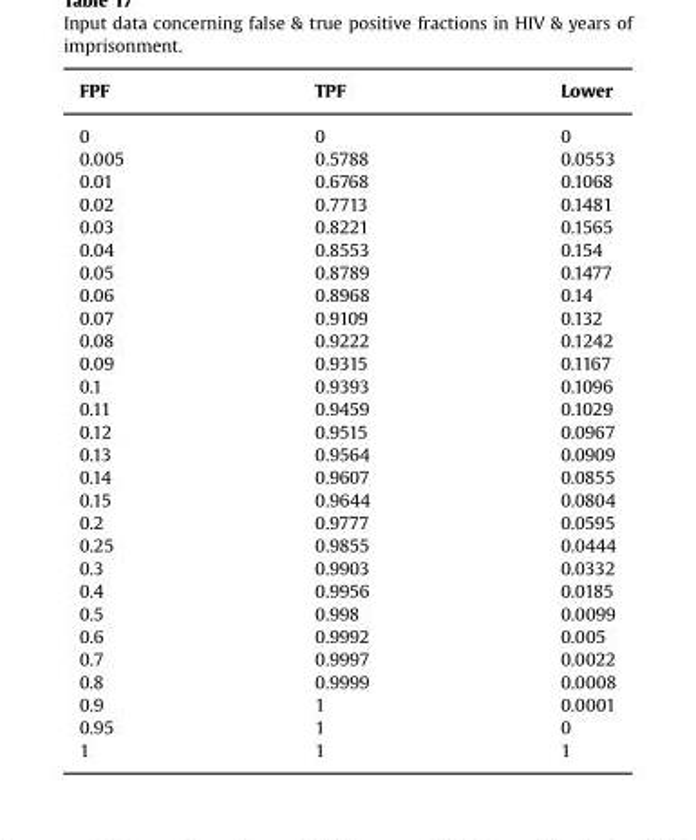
<table><thead><tr><td>FPF</td><td>TPF</td><td>Lower</td></tr></thead><tbody><tr><td>0</td><td>0</td><td>0</td></tr><tr><td>0.005</td><td>0.5788</td><td>0.0553</td></tr><tr><td>0.01</td><td>0.6768</td><td>0.1068</td></tr><tr><td>0.02</td><td>0.7713</td><td>0.1481</td></tr><tr><td>0.03</td><td>0.8221</td><td>0.1565</td></tr><tr><td>0.04</td><td>0.8553</td><td>0.154</td></tr><tr><td>0.05</td><td>0.8789</td><td>0.1477</td></tr><tr><td>0.06</td><td>0.8968</td><td>0.14</td></tr><tr><td>0.07</td><td>0.9109</td><td>0.132</td></tr><tr><td>0.08</td><td>0.9222</td><td>0.1242</td></tr><tr><td>0.09</td><td>0.9315</td><td>0.1167</td></tr><tr><td>0.1</td><td>0.9393</td><td>0.1096</td></tr><tr><td>0.11</td><td>0.9459</td><td>0.1029</td></tr><tr><td>0.12</td><td>0.9515</td><td>0.0967</td></tr><tr><td>0.13</td><td>0.9564</td><td>0.0909</td></tr><tr><td>0.14</td><td>0.9607</td><td>0.0855</td></tr><tr><td>0.15</td><td>0.9644</td><td>0.0804</td></tr><tr><td>0.2</td><td>0.9777</td><td>0.0595</td></tr><tr><td>0.25</td><td>0.9855</td><td>0.0444</td></tr><tr><td>0.3</td><td>0.9903</td><td>0.0332</td></tr><tr><td>0.4</td><td>0.9956</td><td>0.0185</td></tr><tr><td>0.5</td><td>0.998</td><td>0.0099</td></tr><tr><td>0.6</td><td>0.9992</td><td>0.005</td></tr><tr><td>0.7</td><td>0.9997</td><td>0.0022</td></tr><tr><td>0.8</td><td>0.9999</td><td>0.0008</td></tr><tr><td>0.9</td><td>1</td><td>0.0001</td></tr><tr><td>0.95</td><td>1</td><td>0</td></tr><tr><td>1</td><td>1</td><td>1</td></tr></tbody></table>